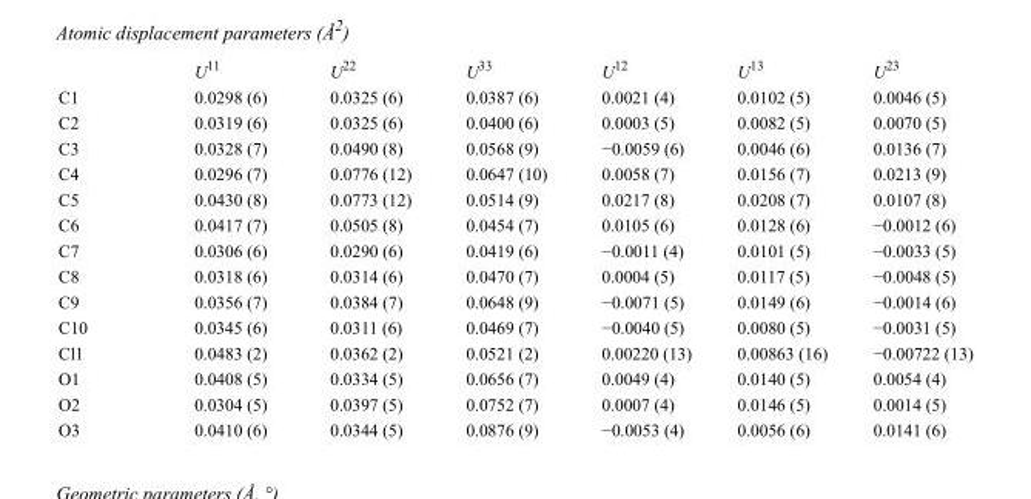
<table><thead><tr><td></td><td>U<sup>11</sup></td><td>U<sup>22</sup></td><td>U<sup>33</sup></td><td>U<sup>12</sup></td><td>U<sup>13</sup></td><td>U<sup>23</sup></td></tr></thead><tbody><tr><td>C1</td><td>0.0298 (6)</td><td>0.0325 (6)</td><td>0.0387 (6)</td><td>0.0021 (4)</td><td>0.0102 (5)</td><td>0.0046 (5)</td></tr><tr><td>C2</td><td>0.0319 (6)</td><td>0.0325 (6)</td><td>0.0400 (6)</td><td>0.0003 (5)</td><td>0.0082 (5)</td><td>0.0070 (5)</td></tr><tr><td>C3</td><td>0.0328 (7)</td><td>0.0490 (8)</td><td>0.0568 (9)</td><td>−0.0059 (6)</td><td>0.0046 (6)</td><td>0.0136 (7)</td></tr><tr><td>C4</td><td>0.0296 (7)</td><td>0.0776 (12)</td><td>0.0647 (10)</td><td>0.0058 (7)</td><td>0.0156 (7)</td><td>0.0213 (9)</td></tr><tr><td>C5</td><td>0.0430 (8)</td><td>0.0773 (12)</td><td>0.0514 (9)</td><td>0.0217 (8)</td><td>0.0208 (7)</td><td>0.0107 (8)</td></tr><tr><td>C6</td><td>0.0417 (7)</td><td>0.0505 (8)</td><td>0.0454 (7)</td><td>0.0105 (6)</td><td>0.0128 (6)</td><td>−0.0012 (6)</td></tr><tr><td>C7</td><td>0.0306 (6)</td><td>0.0290 (6)</td><td>0.0419 (6)</td><td>−0.0011 (4)</td><td>0.0101 (5)</td><td>−0.0033 (5)</td></tr><tr><td>C8</td><td>0.0318 (6)</td><td>0.0314 (6)</td><td>0.0470 (7)</td><td>0.0004 (5)</td><td>0.0117 (5)</td><td>−0.0048 (5)</td></tr><tr><td>C9</td><td>0.0356 (7)</td><td>0.0384 (7)</td><td>0.0648 (9)</td><td>−0.0071 (5)</td><td>0.0149 (6)</td><td>−0.0014 (6)</td></tr><tr><td>C10</td><td>0.0345 (6)</td><td>0.0311 (6)</td><td>0.0469 (7)</td><td>−0.0040 (5)</td><td>0.0080 (5)</td><td>−0.0031 (5)</td></tr><tr><td>Cl1</td><td>0.0483 (2)</td><td>0.0362 (2)</td><td>0.0521 (2)</td><td>0.00220 (13)</td><td>0.00863 (16)</td><td>−0.00722 (13)</td></tr><tr><td>O1</td><td>0.0408 (5)</td><td>0.0334 (5)</td><td>0.0656 (7)</td><td>0.0049 (4)</td><td>0.0140 (5)</td><td>0.0054 (4)</td></tr><tr><td>O2</td><td>0.0304 (5)</td><td>0.0397 (5)</td><td>0.0752 (7)</td><td>0.0007 (4)</td><td>0.0146 (5)</td><td>0.0014 (5)</td></tr><tr><td>O3</td><td>0.0410 (6)</td><td>0.0344 (5)</td><td>0.0876 (9)</td><td>−0.0053 (4)</td><td>0.0056 (6)</td><td>0.0141 (6)</td></tr></tbody></table>